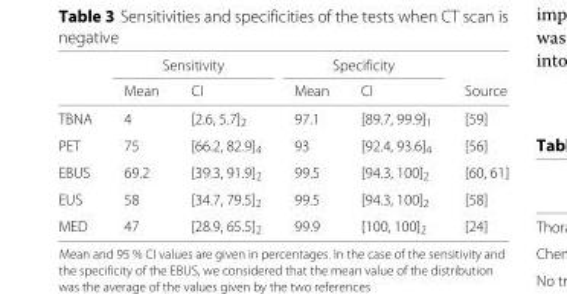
<table><thead><tr><td rowspan="2"></td><td colspan="2">Sensitivity</td><td colspan="2">Specificity</td><td rowspan="2">Source</td></tr><tr><td>Mean</td><td>CI</td><td>Mean</td><td>CI</td></tr></thead><tbody><tr><td>TBNA</td><td>4</td><td>[2.6, 5.7]<sub>2</sub></td><td>97.1</td><td>[89.7, 99.9]<sub>1</sub></td><td>[59]</td></tr><tr><td>PET</td><td>75</td><td>[66.2, 82.9]<sub>4</sub></td><td>93</td><td>[92.4, 93.6]<sub>4</sub></td><td>[56]</td></tr><tr><td>EBUS</td><td>69.2</td><td>[39.3, 91.9]<sub>2</sub></td><td>99.5</td><td>[94.3, 100]<sub>2</sub></td><td>[60, 61]</td></tr><tr><td>EUS</td><td>58</td><td>[34.7, 79.5]<sub>2</sub></td><td>99.5</td><td>[94.3, 100]<sub>2</sub></td><td>[58]</td></tr><tr><td>MED</td><td>47</td><td>[28.9, 65.5]<sub>2</sub></td><td>99.9</td><td>[100, 100]<sub>2</sub></td><td>[24]</td></tr></tbody></table>